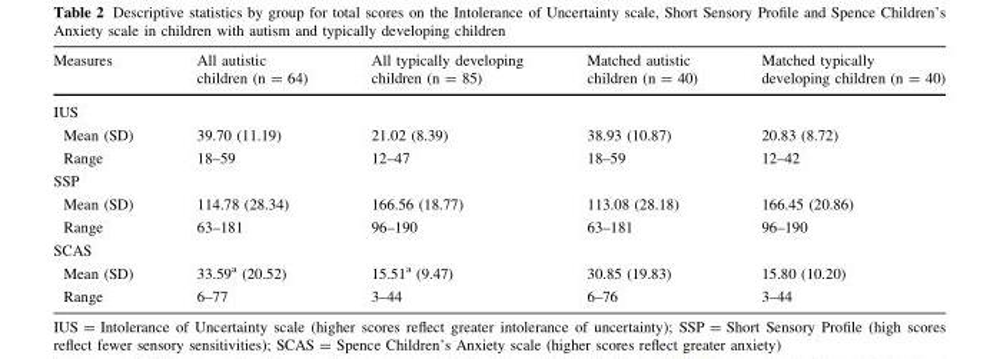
<table><thead><tr><td>Measures</td><td>All autistic children (n = 64)</td><td>All typically developing children (n = 85)</td><td>Matched autistic children (n = 40)</td><td>Matched typically developing children (n = 40)</td></tr></thead><tbody><tr><td colspan="5">IUS</td></tr><tr><td>Mean (SD)</td><td>39.70 (11.19)</td><td>21.02 (8.39)</td><td>38.93 (10.87)</td><td>20.83 (8.72)</td></tr><tr><td>Range</td><td>18–59</td><td>12–47</td><td>18–59</td><td>12–42</td></tr><tr><td colspan="5">SSP</td></tr><tr><td>Mean (SD)</td><td>114.78 (28.34)</td><td>166.56 (18.77)</td><td>113.08 (28.18)</td><td>166.45 (20.86)</td></tr><tr><td>Range</td><td>63–181</td><td>96–190</td><td>63–181</td><td>96–190</td></tr><tr><td colspan="5">SCAS</td></tr><tr><td>Mean (SD)</td><td>33.59<sup>a</sup> (20.52)</td><td>15.51<sup>a</sup> (9.47)</td><td>30.85 (19.83)</td><td>15.80 (10.20)</td></tr><tr><td>Range</td><td>6–77</td><td>3–44</td><td>6–76</td><td>3–44</td></tr></tbody></table>